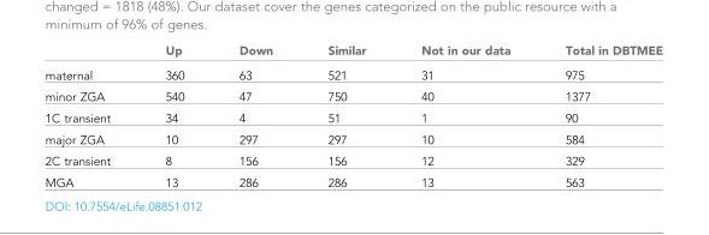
<table><thead><tr><td></td><td>Up</td><td>Down</td><td>Similar</td><td>Not in our data</td><td>Total in DBTMEE</td></tr></thead><tbody><tr><td>maternal</td><td>360</td><td>63</td><td>521</td><td>31</td><td>975</td></tr><tr><td>minor ZGA</td><td>540</td><td>47</td><td>750</td><td>40</td><td>1377</td></tr><tr><td>1C transient</td><td>34</td><td>4</td><td>51</td><td>1</td><td>90</td></tr><tr><td>major ZGA</td><td>10</td><td>297</td><td>297</td><td>10</td><td>584</td></tr><tr><td>2C transient</td><td>8</td><td>156</td><td>156</td><td>12</td><td>329</td></tr><tr><td>MGA</td><td>13</td><td>286</td><td>286</td><td>13</td><td>563</td></tr></tbody></table>